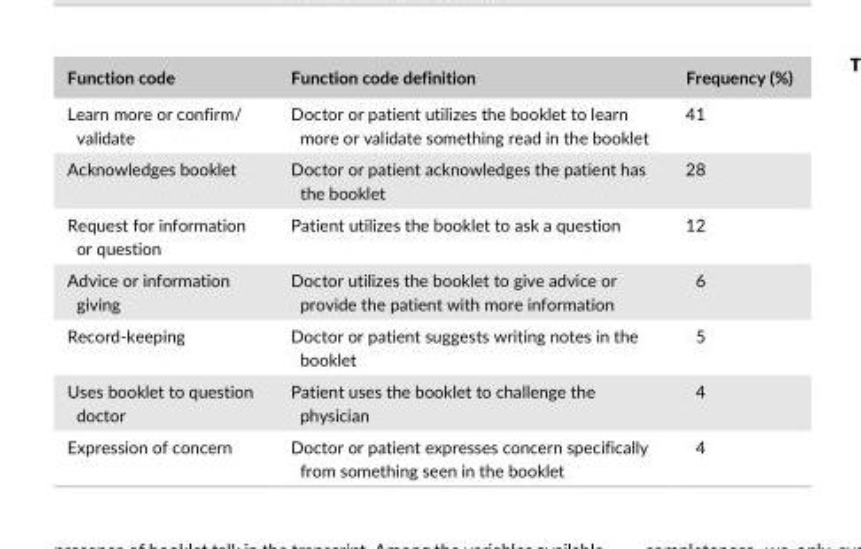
<table><thead><tr><td>Function code</td><td>Function code definition</td><td>Frequency (%)</td></tr></thead><tbody><tr><td>Learn more or confirm/ validate</td><td>Doctor or patient utilizes the booklet to learn more or validate something read in the booklet</td><td>41</td></tr><tr><td>Acknowledges booklet</td><td>Doctor or patient acknowledges the patient has the booklet</td><td>28</td></tr><tr><td>Request for information or question</td><td>Patient utilizes the booklet to ask a question</td><td>12</td></tr><tr><td>Advice or information giving</td><td>Doctor utilizes the booklet to give advice or provide the patient with more information</td><td>6</td></tr><tr><td>Record- keeping</td><td>Doctor or patient suggests writing notes in the booklet</td><td>5</td></tr><tr><td>Uses booklet to question doctor</td><td>Patient uses the booklet to challenge the physician</td><td>4</td></tr><tr><td>Expression of concern</td><td>Doctor or patient expresses concern specifically from something seen in the booklet</td><td>4</td></tr></tbody></table>